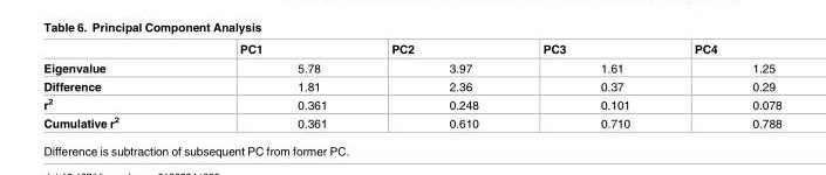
<table><thead><tr><td></td><td>PC1</td><td>PC2</td><td>PC3</td><td>PC4</td></tr></thead><tbody><tr><td>Eigenvalue</td><td>5.78</td><td>3.97</td><td>1.61</td><td>1.25</td></tr><tr><td>Difference</td><td>1.81</td><td>2.36</td><td>0.37</td><td>0.29</td></tr><tr><td>r<sup>2</sup></td><td>0.361</td><td>0.248</td><td>0.101</td><td>0.078</td></tr><tr><td>Cumulative r<sup>2</sup></td><td>0.361</td><td>0.610</td><td>0.710</td><td>0.788</td></tr></tbody></table>